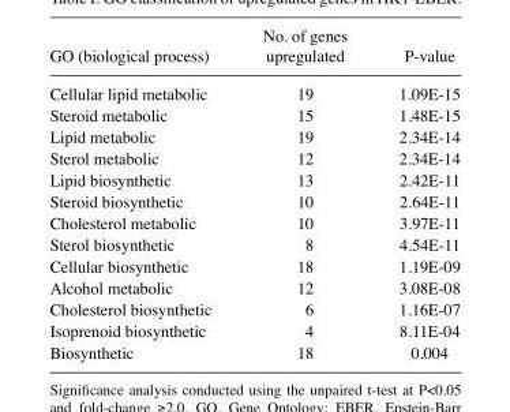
<table><thead><tr><td>GO (biological process)</td><td>upregulated</td><td>P-value</td></tr></thead><tbody><tr><td>Cellular lipid metabolic</td><td>19</td><td>1.09E-15</td></tr><tr><td>Steroid metabolic</td><td>15</td><td>1.48E-15</td></tr><tr><td>Lipid metabolic</td><td>19</td><td>2.34E-14</td></tr><tr><td>Sterol metabolic</td><td>12</td><td>2.34E-14</td></tr><tr><td>Lipid biosynthetic</td><td>13</td><td>2.42E-11</td></tr><tr><td>Steroid biosynthetic</td><td>10</td><td>2.64E-11</td></tr><tr><td>Cholesterol metabolic</td><td>10</td><td>3.97E-11</td></tr><tr><td>Sterol biosynthetic</td><td>8</td><td>4.54E-11</td></tr><tr><td>Cellular biosynthetic</td><td>18</td><td>1.19E-09</td></tr><tr><td>Alcohol metabolic</td><td>12</td><td>3.08E-08</td></tr><tr><td>Cholesterol biosynthetic</td><td>6</td><td>1.16E-07</td></tr><tr><td>Isoprenoid biosynthetic</td><td>4</td><td>8.11E-04</td></tr><tr><td>Biosynthetic</td><td>18</td><td>0.004</td></tr></tbody></table>